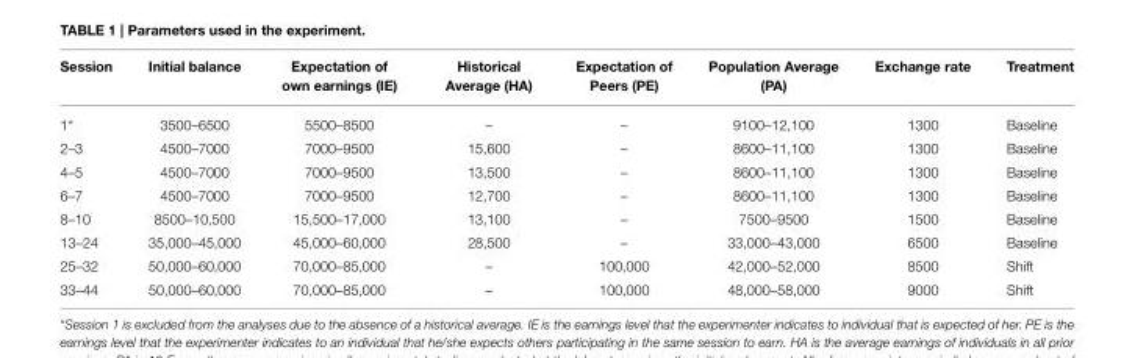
<table><thead><tr><td>Session</td><td>Initial balance</td><td>Expectation of own earnings (IE)</td><td>Historical Average (HA)</td><td>Expectation of Peers (PE)</td><td>Population Average (PA)</td><td>Exchange rate</td><td>Treatment</td></tr></thead><tbody><tr><td>1*</td><td>3500–6500</td><td>5500–8500</td><td>–</td><td>–</td><td>9100–12,100</td><td>1300</td><td>Baseline</td></tr><tr><td>2–3</td><td>4500–7000</td><td>7000–9500</td><td>15,600</td><td>–</td><td>8600–11,100</td><td>1300</td><td>Baseline</td></tr><tr><td>4–5</td><td>4500–7000</td><td>7000–9500</td><td>13,500</td><td>–</td><td>8600–11,100</td><td>1300</td><td>Baseline</td></tr><tr><td>6–7</td><td>4500–7000</td><td>7000–9500</td><td>12,700</td><td>–</td><td>8600–11,100</td><td>1300</td><td>Baseline</td></tr><tr><td>8–10</td><td>8500–10,500</td><td>15,500–17,000</td><td>13,100</td><td>–</td><td>7500–9500</td><td>1500</td><td>Baseline</td></tr><tr><td>13–24</td><td>35,000–45,000</td><td>45,000–60,000</td><td>28,500</td><td>–</td><td>33,000–43,000</td><td>6500</td><td>Baseline</td></tr><tr><td>25–32</td><td>50,000–60,000</td><td>70,000–85,000</td><td>–</td><td>100,000</td><td>42,000–52,000</td><td>8500</td><td>Shift</td></tr><tr><td>33–44</td><td>50,000–60,000</td><td>70,000–85,000</td><td>–</td><td>100,000</td><td>48,000–58,000</td><td>9000</td><td>Shift</td></tr></tbody></table>